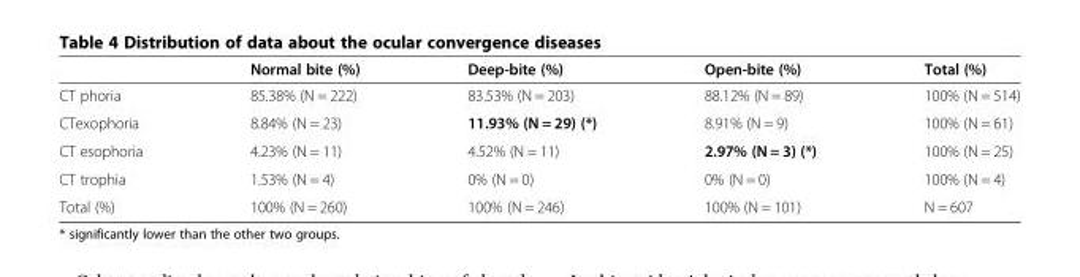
<table><thead><tr><td></td><td>Normal bite (%)</td><td>Deep-bite (%)</td><td>Open-bite (%)</td><td>Total (%)</td></tr></thead><tbody><tr><td>CT phoria</td><td>85.38% (N = 222)</td><td>83.53% (N = 203)</td><td>88.12% (N = 89)</td><td>100% (N = 514)</td></tr><tr><td>CTexophoria</td><td>8.84% (N = 23)</td><td>11.93% (N = 29) (*)</td><td>8.91% (N = 9)</td><td>100% (N = 61)</td></tr><tr><td>CT esophoria</td><td>4.23% (N = 11)</td><td>4.52% (N = 11)</td><td>2.97% (N = 3) (*)</td><td>100% (N = 25)</td></tr><tr><td>CT trophia</td><td>1.53% (N = 4)</td><td>0% (N = 0)</td><td>0% (N = 0)</td><td>100% (N = 4)</td></tr><tr><td>Total (%)</td><td>100% (N = 260)</td><td>100% (N = 246)</td><td>100% (N = 101)</td><td>N = 607</td></tr></tbody></table>